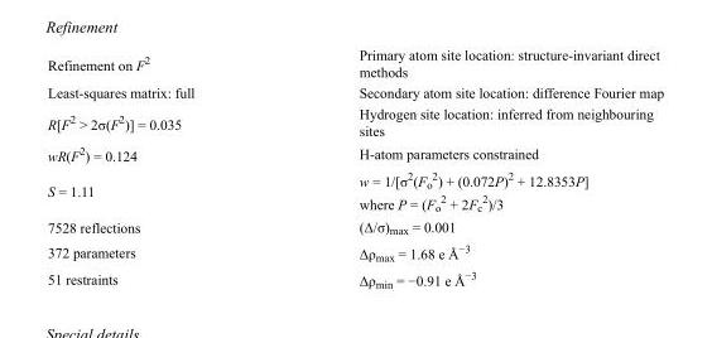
<table><tbody><tr><td>Refinement on F<sup>2</sup></td><td>Primary atom site location: structure-invariant direct methods</td></tr><tr><td>Least-squares matrix: full</td><td>Secondary atom site location: difference Fourier map</td></tr><tr><td>R[F<sup>2</sup> &gt; 2σ(F<sup>2</sup>)] = 0.035</td><td>Hydrogen site location: inferred from neighbouring sites</td></tr><tr><td>wR(F<sup>2</sup>) = 0.124</td><td>H-atom parameters constrained</td></tr><tr><td>S = 1.11</td><td>w = 1/[σ<sup>2</sup>(F<sub>o</sub> <sup>2</sup>) + (0.072P)<sup>2</sup> + 12.8353P] where P = (F<sub>o</sub> <sup>2</sup> + 2F<sub>c</sub> <sup>2</sup>)/3</td></tr><tr><td>7528 reflections</td><td>(Δ/σ)<sub>max</sub> = 0.001</td></tr><tr><td>372 parameters</td><td>Δρ<sub>max</sub> = 1.68 e Å<sup>−3</sup></td></tr><tr><td>51 restraints</td><td>Δρ<sub>min</sub> = −0.91 e Å<sup>−3</sup></td></tr></tbody></table>